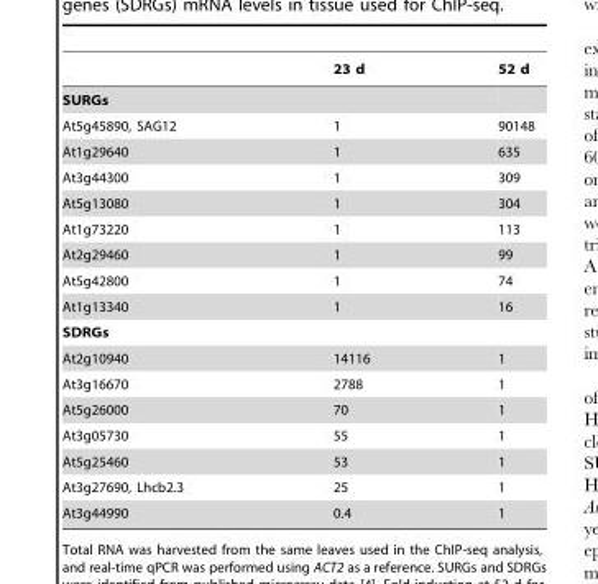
<table><thead><tr><td></td><td>23 d</td><td>52 d</td></tr></thead><tbody><tr><td colspan="3">SURGs</td></tr><tr><td>At5g45890, SAG12</td><td>1</td><td>90148</td></tr><tr><td>At1g29640</td><td>1</td><td>635</td></tr><tr><td>At3g44300</td><td>1</td><td>309</td></tr><tr><td>At5g13080</td><td>1</td><td>304</td></tr><tr><td>At1g73220</td><td>1</td><td>113</td></tr><tr><td>At2g29460</td><td>1</td><td>99</td></tr><tr><td>At5g42800</td><td>1</td><td>74</td></tr><tr><td>At1g13340</td><td>1</td><td>16</td></tr><tr><td colspan="3">SDRGs</td></tr><tr><td>At2g10940</td><td>14116</td><td>1</td></tr><tr><td>At3g16670</td><td>2788</td><td>1</td></tr><tr><td>At5g26000</td><td>70</td><td>1</td></tr><tr><td>At3g05730</td><td>55</td><td>1</td></tr><tr><td>At5g25460</td><td>53</td><td>1</td></tr><tr><td>At3g27690, Lhcb2.3</td><td>25</td><td>1</td></tr><tr><td>At3g44990</td><td>0.4</td><td>1</td></tr></tbody></table>